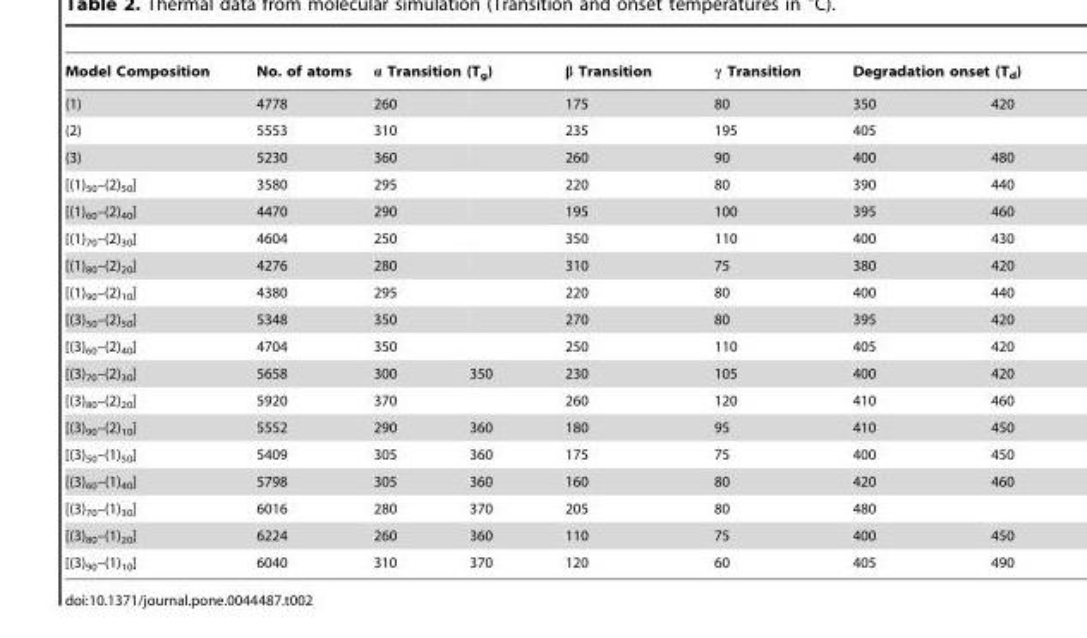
<table><thead><tr><td rowspan="2">Model Composition (1)</td><td rowspan="2">No. of atoms 4778</td><td colspan="2">α Transition (T<sub>g</sub>)</td><td rowspan="2">β Transition 175</td><td rowspan="2">γ Transition 80</td><td colspan="2">Degradation onset (T<sub>d</sub>)</td></tr><tr><td>260</td><td></td><td>350</td><td>420</td></tr></thead><tbody><tr><td>(2)</td><td>5553</td><td>310</td><td></td><td>235</td><td>195</td><td>405</td><td></td></tr><tr><td>(3)</td><td>5230</td><td>360</td><td></td><td>260</td><td>90</td><td>400</td><td>480</td></tr><tr><td>[(1)<sub>50</sub>–(2)<sub>50</sub>]</td><td>3580</td><td>295</td><td></td><td>220</td><td>80</td><td>390</td><td>440</td></tr><tr><td>[(1)<sub>60</sub>–(2)<sub>40</sub>]</td><td>4470</td><td>290</td><td></td><td>195</td><td>100</td><td>395</td><td>460</td></tr><tr><td>[(1)<sub>70</sub>–(2)<sub>30</sub>]</td><td>4604</td><td>250</td><td></td><td>350</td><td>110</td><td>400</td><td>430</td></tr><tr><td>[(1)<sub>80</sub>–(2)<sub>20</sub>]</td><td>4276</td><td>280</td><td></td><td>310</td><td>75</td><td>380</td><td>420</td></tr><tr><td>[(1)<sub>90</sub>–(2)<sub>10</sub>]</td><td>4380</td><td>295</td><td></td><td>220</td><td>80</td><td>400</td><td>440</td></tr><tr><td>[(3)<sub>50</sub>–(2)<sub>50</sub>]</td><td>5348</td><td>350</td><td></td><td>270</td><td>80</td><td>395</td><td>420</td></tr><tr><td>[(3)<sub>60</sub>–(2)<sub>40</sub>]</td><td>4704</td><td>350</td><td></td><td>250</td><td>110</td><td>405</td><td>420</td></tr><tr><td>[(3)<sub>70</sub>–(2)<sub>30</sub>]</td><td>5658</td><td>300</td><td>350</td><td>230</td><td>105</td><td>400</td><td>420</td></tr><tr><td>[(3)<sub>80</sub>–(2)<sub>20</sub>]</td><td>5920</td><td>370</td><td></td><td>260</td><td>120</td><td>410</td><td>460</td></tr><tr><td>[(3)<sub>90</sub>–(2)<sub>10</sub>]</td><td>5552</td><td>290</td><td>360</td><td>180</td><td>95</td><td>410</td><td>450</td></tr><tr><td>[(3)<sub>50</sub>–(1)<sub>50</sub>]</td><td>5409</td><td>305</td><td>360</td><td>175</td><td>75</td><td>400</td><td>450</td></tr><tr><td>[(3)<sub>60</sub>–(1)<sub>40</sub>]</td><td>5798</td><td>305</td><td>360</td><td>160</td><td>80</td><td>420</td><td>460</td></tr><tr><td>[(3)<sub>70</sub>–(1)<sub>30</sub>]</td><td>6016</td><td>280</td><td>370</td><td>205</td><td>80</td><td>480</td><td></td></tr><tr><td>[(3)<sub>80</sub>–(1)<sub>20</sub>]</td><td>6224</td><td>260</td><td>360</td><td>110</td><td>75</td><td>400</td><td>450</td></tr><tr><td>[(3)<sub>90</sub>–(1)<sub>10</sub>]</td><td>6040</td><td>310</td><td>370</td><td>120</td><td>60</td><td>405</td><td>490</td></tr></tbody></table>